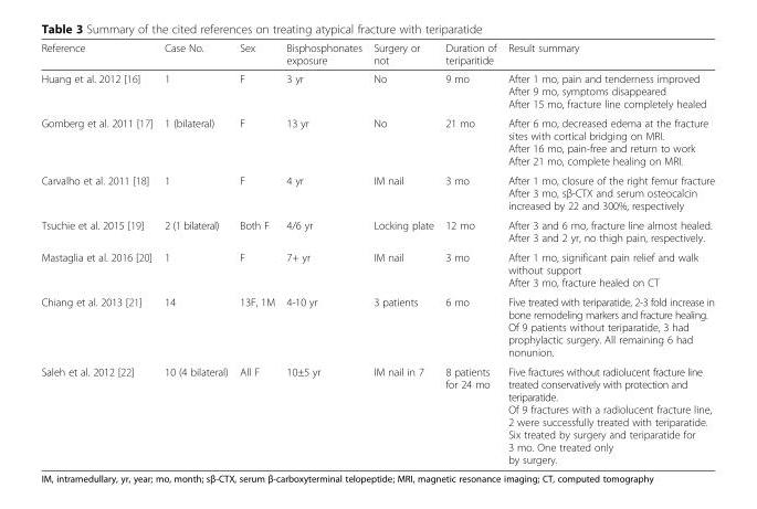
<table><thead><tr><td>Reference</td><td>Case No.</td><td>Sex</td><td>Bisphosphonates exposure</td><td>Surgery or not</td><td>Duration of teriparitide</td><td>Result summary</td></tr></thead><tbody><tr><td>Huang et al. 2012 [16]</td><td>1</td><td>F</td><td>3 yr</td><td>No</td><td>9 mo</td><td>After 1 mo, pain and tenderness improved After 9 mo, symptoms disappeared After 15 mo, fracture line completely healed</td></tr><tr><td>Gomberg et al. 2011 [17]</td><td>1 (bilateral)</td><td>F</td><td>13 yr</td><td>No</td><td>21 mo</td><td>After 6 mo, decreased edema at the fracture sites with cortical bridging on MRI. After 16 mo, pain-free and return to work After 21 mo, complete healing on MRI.</td></tr><tr><td>Carvalho et al. 2011 [18]</td><td>1</td><td>F</td><td>4 yr</td><td>IM nail</td><td>3 mo</td><td>After 1 mo, closure of the right femur fracture After 3 mo, sβ-CTX and serum osteocalcin increased by 22 and 300%, respectively</td></tr><tr><td>Tsuchie et al. 2015 [19]</td><td>2 (1 bilateral)</td><td>Both F</td><td>4/6 yr</td><td>Locking plate</td><td>12 mo</td><td>After 3 and 6 mo, fracture line almost healed. After 3 and 2 yr, no thigh pain, respectively.</td></tr><tr><td>Mastaglia et al. 2016 [20]</td><td>1</td><td>F</td><td>7+ yr</td><td>IM nail</td><td>3 mo</td><td>After 1 mo, significant pain relief and walk without support After 3 mo, fracture healed on CT</td></tr><tr><td>Chiang et al. 2013 [21]</td><td>14</td><td>13F, 1M</td><td>4-10 yr</td><td>3 patients</td><td>6 mo</td><td>Five treated with teriparatide, 2-3 fold increase in bone remodeling markers and fracture healing. Of 9 patients without teriparatide, 3 had prophylactic surgery. All remaining 6 had nonunion.</td></tr><tr><td>Saleh et al. 2012 [22]</td><td>10 (4 bilateral)</td><td>All F</td><td>10±5 yr</td><td>IM nail in 7</td><td>8 patients for 24 mo</td><td>Five fractures without radiolucent fracture line treated conservatively with protection and teriparatide. Of 9 fractures with a radiolucent fracture line, 2 were successfully treated with teriparatide. Six treated by surgery and teriparatide for 3 mo. One treated only by surgery.</td></tr></tbody></table>